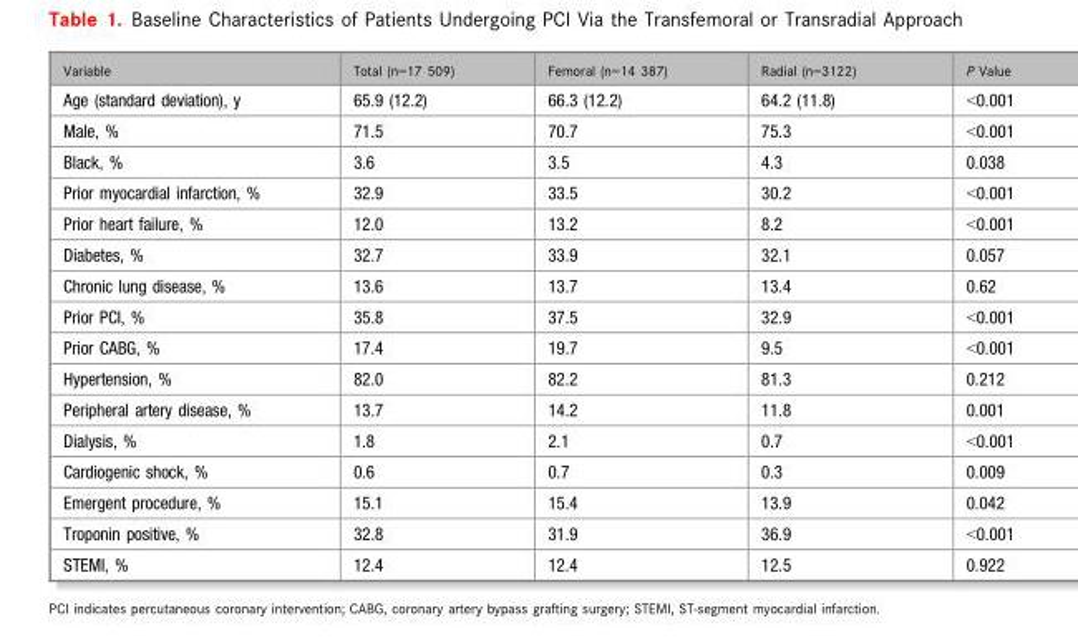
<table><thead><tr><td>Variable</td><td>Total (n=17 509)</td><td>Femoral (n=14 387)</td><td>Radial (n=3122)</td><td>P Value</td></tr></thead><tbody><tr><td>Age (standard deviation), y</td><td>65.9 (12.2)</td><td>66.3 (12.2)</td><td>64.2 (11.8)</td><td>&lt;0.001</td></tr><tr><td>Male, %</td><td>71.5</td><td>70.7</td><td>75.3</td><td>&lt;0.001</td></tr><tr><td>Black, %</td><td>3.6</td><td>3.5</td><td>4.3</td><td>0.038</td></tr><tr><td>Prior myocardial infarction, %</td><td>32.9</td><td>33.5</td><td>30.2</td><td>&lt;0.001</td></tr><tr><td>Prior heart failure, %</td><td>12.0</td><td>13.2</td><td>8.2</td><td>&lt;0.001</td></tr><tr><td>Diabetes, %</td><td>32.7</td><td>33.9</td><td>32.1</td><td>0.057</td></tr><tr><td>Chronic lung disease, %</td><td>13.6</td><td>13.7</td><td>13.4</td><td>0.62</td></tr><tr><td>Prior PCI, %</td><td>35.8</td><td>37.5</td><td>32.9</td><td>&lt;0.001</td></tr><tr><td>Prior CABG, %</td><td>17.4</td><td>19.7</td><td>9.5</td><td>&lt;0.001</td></tr><tr><td>Hypertension, %</td><td>82.0</td><td>82.2</td><td>81.3</td><td>0.212</td></tr><tr><td>Peripheral artery disease, %</td><td>13.7</td><td>14.2</td><td>11.8</td><td>0.001</td></tr><tr><td>Dialysis, %</td><td>1.8</td><td>2.1</td><td>0.7</td><td>&lt;0.001</td></tr><tr><td>Cardiogenic shock, %</td><td>0.6</td><td>0.7</td><td>0.3</td><td>0.009</td></tr><tr><td>Emergent procedure, %</td><td>15.1</td><td>15.4</td><td>13.9</td><td>0.042</td></tr><tr><td>Troponin positive, %</td><td>32.8</td><td>31.9</td><td>36.9</td><td>&lt;0.001</td></tr><tr><td>STEMI, %</td><td>12.4</td><td>12.4</td><td>12.5</td><td>0.922</td></tr></tbody></table>